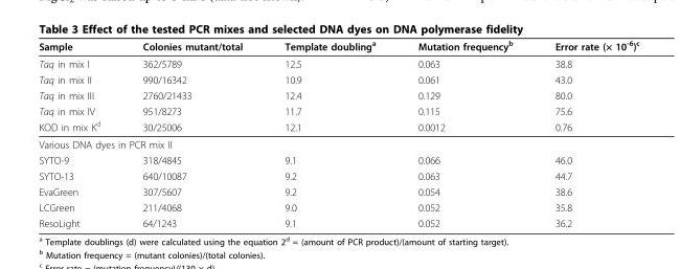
<table><thead><tr><td>Sample</td><td>Colonies mutant/total</td><td>Template doubling<sup>a</sup></td><td>Mutation frequency<sup>b</sup></td><td>Error rate (× 10<sup>-6</sup>)<sup>c</sup></td></tr></thead><tbody><tr><td>Taq in mix I</td><td>362/5789</td><td>12.5</td><td>0.063</td><td>38.8</td></tr><tr><td>Taq in mix II</td><td>990/16342</td><td>10.9</td><td>0.061</td><td>43.0</td></tr><tr><td>Taq in mix III</td><td>2760/21433</td><td>12.4</td><td>0.129</td><td>80.0</td></tr><tr><td>Taq in mix IV</td><td>951/8273</td><td>11.7</td><td>0.115</td><td>75.6</td></tr><tr><td>KOD in mix K<sup>d</sup></td><td>30/25006</td><td>12.1</td><td>0.0012</td><td>0.76</td></tr><tr><td colspan="5">Various DNA dyes in PCR mix II</td></tr><tr><td>SYTO-9</td><td>318/4845</td><td>9.1</td><td>0.066</td><td>46.0</td></tr><tr><td>SYTO-13</td><td>640/10087</td><td>9.2</td><td>0.063</td><td>44.7</td></tr><tr><td>EvaGreen</td><td>307/5607</td><td>9.2</td><td>0.054</td><td>38.6</td></tr><tr><td>LCGreen</td><td>211/4068</td><td>9.0</td><td>0.052</td><td>35.8</td></tr><tr><td>ResoLight</td><td>64/1243</td><td>9.1</td><td>0.052</td><td>36.2</td></tr></tbody></table>